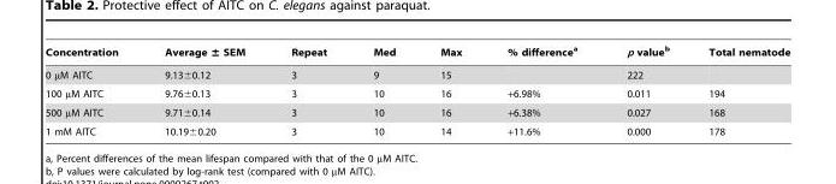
<table><thead><tr><td>Concentration</td><td>Average ± SEM</td><td>Repeat</td><td>Med</td><td>Max</td><td>% difference<sup>a</sup></td><td>p value<sup>b</sup></td><td>Total nematode</td></tr></thead><tbody><tr><td>0 µM AITC</td><td>9.13±0.12</td><td>3</td><td>9</td><td>15</td><td></td><td>222</td><td></td></tr><tr><td>100 µM AITC</td><td>9.76±0.13</td><td>3</td><td>10</td><td>16</td><td>+6.98%</td><td>0.011</td><td>194</td></tr><tr><td>500 µM AITC</td><td>9.71±0.14</td><td>3</td><td>10</td><td>16</td><td>+6.38%</td><td>0.027</td><td>168</td></tr><tr><td>1 mM AITC</td><td>10.19±0.20</td><td>3</td><td>10</td><td>14</td><td>+11.6%</td><td>0.000</td><td>178</td></tr></tbody></table>